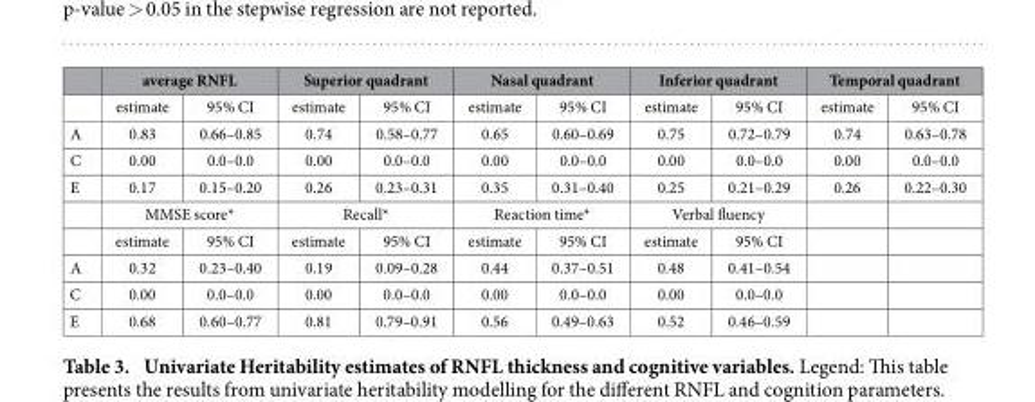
<table><thead><tr><td rowspan="2"></td><td colspan="2">average RNFL</td><td colspan="2">Superior quadrant</td><td colspan="2">Nasal quadrant</td><td colspan="2">Inferior quadrant</td><td colspan="2">Temporal quadrant</td></tr><tr><td>estimate</td><td>95% CI</td><td>estimate</td><td>95% CI</td><td>estimate</td><td>95% CI</td><td>estimate</td><td>95% CI</td><td>estimate</td><td>95% CI</td></tr></thead><tbody><tr><td>A</td><td>0.83</td><td>0.66–0.85</td><td>0.74</td><td>0.58–0.77</td><td>0.65</td><td>0.60–0.69</td><td>0.75</td><td>0.72–0.79</td><td>0.74</td><td>0.63–0.78</td></tr><tr><td>C</td><td>0.00</td><td>0.0–0.0</td><td>0.00</td><td>0.0–0.0</td><td>0.00</td><td>0.0–0.0</td><td>0.00</td><td>0.0–0.0</td><td>0.00</td><td>0.0–0.0</td></tr><tr><td rowspan="3">E</td><td>0.17</td><td>0.15–0.20</td><td>0.26</td><td>0.23–0.31</td><td>0.35</td><td>0.31–0.40</td><td>0.25</td><td>0.21–0.29</td><td>0.26</td><td>0.22–0.30</td></tr><tr><td colspan="2">MMSE score*</td><td colspan="2">Recall*</td><td colspan="2">Reaction time*</td><td colspan="2">Verbal fluency</td><td></td><td></td></tr><tr><td>estimate</td><td>95% CI</td><td>estimate</td><td>95% CI</td><td>estimate</td><td>95% CI</td><td>estimate</td><td>95% CI</td><td></td><td></td></tr><tr><td>A</td><td>0.32</td><td>0.23–0.40</td><td>0.19</td><td>0.09–0.28</td><td>0.44</td><td>0.37–0.51</td><td>0.48</td><td>0.41–0.54</td><td></td><td></td></tr><tr><td>C</td><td>0.00</td><td>0.0–0.0</td><td>0.00</td><td>0.0–0.0</td><td>0.00</td><td>0.0–0.0</td><td>0.00</td><td>0.0–0.0</td><td></td><td></td></tr><tr><td>E</td><td>0.68</td><td>0.60–0.77</td><td>0.81</td><td>0.79–0.91</td><td>0.56</td><td>0.49–0.63</td><td>0.52</td><td>0.46–0.59</td><td></td><td></td></tr></tbody></table>